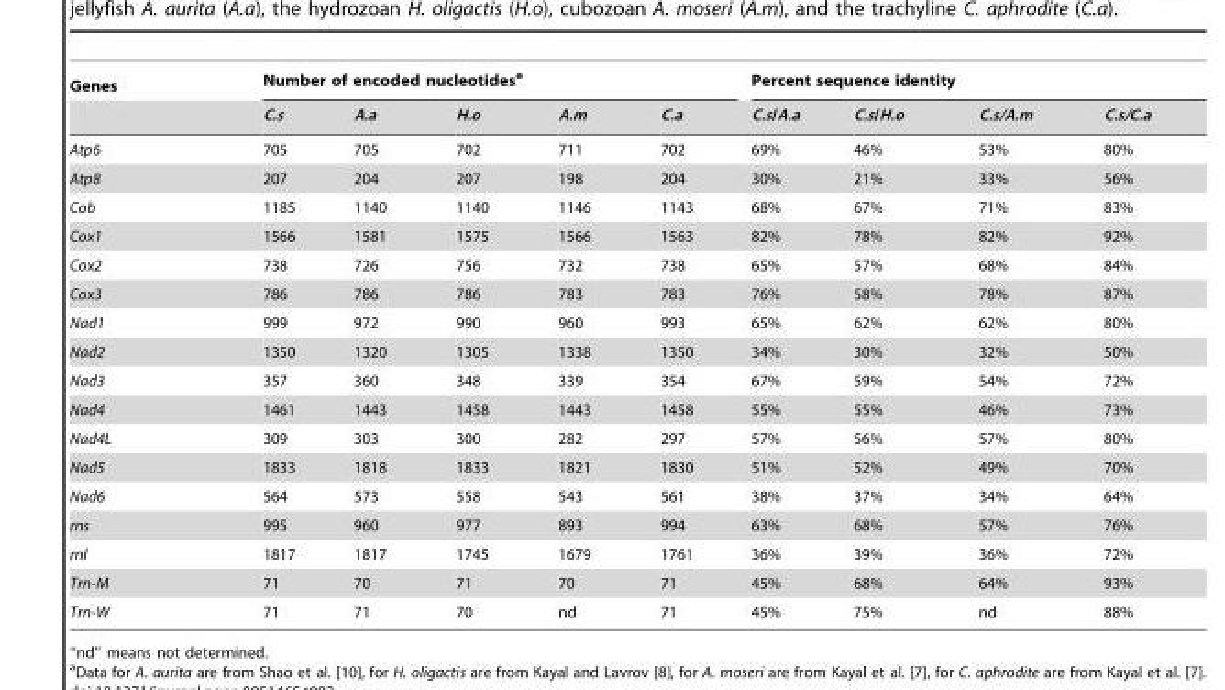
<table><thead><tr><td rowspan="2">Genes</td><td colspan="5">Number of encoded nucleotides<sup>a</sup></td><td colspan="4">Percent sequence identity</td></tr><tr><td>C.s</td><td>A.a</td><td>H.o</td><td>A.m</td><td>C.a</td><td>C.s/A.a</td><td>C.s/H.o</td><td>C.s/A.m</td><td>C.s/C.a</td></tr></thead><tbody><tr><td>Atp6</td><td>705</td><td>705</td><td>702</td><td>711</td><td>702</td><td>69%</td><td>46%</td><td>53%</td><td>80%</td></tr><tr><td>Atp8</td><td>207</td><td>204</td><td>207</td><td>198</td><td>204</td><td>30%</td><td>21%</td><td>33%</td><td>56%</td></tr><tr><td>Cob</td><td>1185</td><td>1140</td><td>1140</td><td>1146</td><td>1143</td><td>68%</td><td>67%</td><td>71%</td><td>83%</td></tr><tr><td>Cox1</td><td>1566</td><td>1581</td><td>1575</td><td>1566</td><td>1563</td><td>82%</td><td>78%</td><td>82%</td><td>92%</td></tr><tr><td>Cox2</td><td>738</td><td>726</td><td>756</td><td>732</td><td>738</td><td>65%</td><td>57%</td><td>68%</td><td>84%</td></tr><tr><td>Cox3</td><td>786</td><td>786</td><td>786</td><td>783</td><td>783</td><td>76%</td><td>58%</td><td>78%</td><td>87%</td></tr><tr><td>Nad1</td><td>999</td><td>972</td><td>990</td><td>960</td><td>993</td><td>65%</td><td>62%</td><td>62%</td><td>80%</td></tr><tr><td>Nad2</td><td>1350</td><td>1320</td><td>1305</td><td>1338</td><td>1350</td><td>34%</td><td>30%</td><td>32%</td><td>50%</td></tr><tr><td>Nad3</td><td>357</td><td>360</td><td>348</td><td>339</td><td>354</td><td>67%</td><td>59%</td><td>54%</td><td>72%</td></tr><tr><td>Nad4</td><td>1461</td><td>1443</td><td>1458</td><td>1443</td><td>1458</td><td>55%</td><td>55%</td><td>46%</td><td>73%</td></tr><tr><td>Nad4L</td><td>309</td><td>303</td><td>300</td><td>282</td><td>297</td><td>57%</td><td>56%</td><td>57%</td><td>80%</td></tr><tr><td>Nad5</td><td>1833</td><td>1818</td><td>1833</td><td>1821</td><td>1830</td><td>51%</td><td>52%</td><td>49%</td><td>70%</td></tr><tr><td>Nad6</td><td>564</td><td>573</td><td>558</td><td>543</td><td>561</td><td>38%</td><td>37%</td><td>34%</td><td>64%</td></tr><tr><td>rns</td><td>995</td><td>960</td><td>977</td><td>893</td><td>994</td><td>63%</td><td>68%</td><td>57%</td><td>76%</td></tr><tr><td>rnl</td><td>1817</td><td>1817</td><td>1745</td><td>1679</td><td>1761</td><td>36%</td><td>39%</td><td>36%</td><td>72%</td></tr><tr><td>Trn-M</td><td>71</td><td>70</td><td>71</td><td>70</td><td>71</td><td>45%</td><td>68%</td><td>64%</td><td>93%</td></tr><tr><td>Trn-W</td><td>71</td><td>71</td><td>70</td><td>nd</td><td>71</td><td>45%</td><td>75%</td><td>nd</td><td>88%</td></tr></tbody></table>